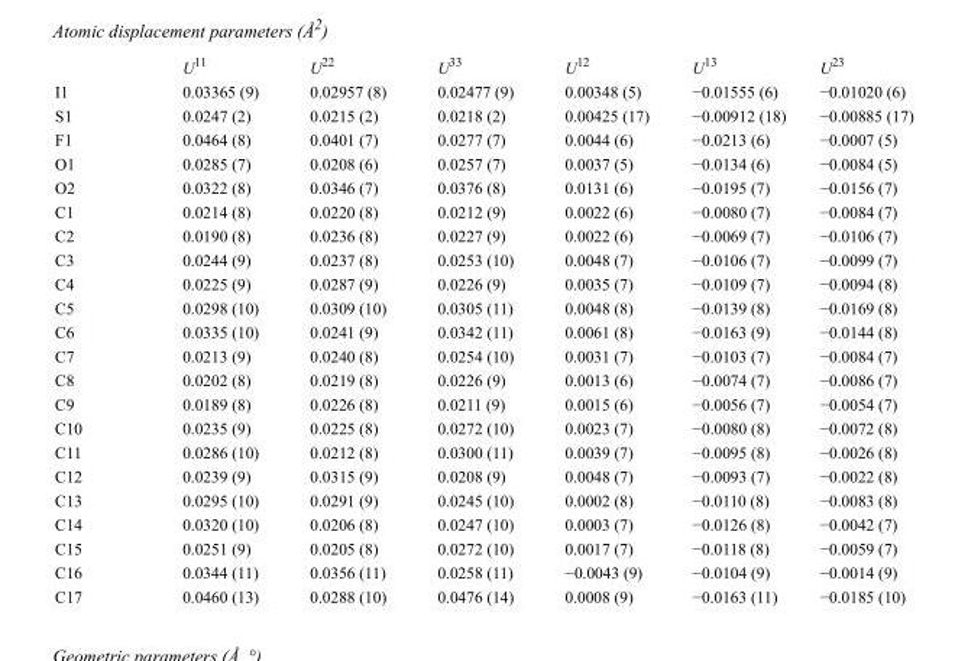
<table><thead><tr><td></td><td>U<sup>11</sup></td><td>U<sup>22</sup></td><td>U<sup>33</sup></td><td>U<sup>12</sup></td><td>U<sup>13</sup></td><td>U<sup>23</sup></td></tr></thead><tbody><tr><td>I1</td><td>0.03365 (9)</td><td>0.02957 (8)</td><td>0.02477 (9)</td><td>0.00348 (5)</td><td>−0.01555 (6)</td><td>−0.01020 (6)</td></tr><tr><td>S1</td><td>0.0247 (2)</td><td>0.0215 (2)</td><td>0.0218 (2)</td><td>0.00425 (17)</td><td>−0.00912 (18)</td><td>−0.00885 (17)</td></tr><tr><td>F1</td><td>0.0464 (8)</td><td>0.0401 (7)</td><td>0.0277 (7)</td><td>0.0044 (6)</td><td>−0.0213 (6)</td><td>−0.0007 (5)</td></tr><tr><td>O1</td><td>0.0285 (7)</td><td>0.0208 (6)</td><td>0.0257 (7)</td><td>0.0037 (5)</td><td>−0.0134 (6)</td><td>−0.0084 (5)</td></tr><tr><td>O2</td><td>0.0322 (8)</td><td>0.0346 (7)</td><td>0.0376 (8)</td><td>0.0131 (6)</td><td>−0.0195 (7)</td><td>−0.0156 (7)</td></tr><tr><td>C1</td><td>0.0214 (8)</td><td>0.0220 (8)</td><td>0.0212 (9)</td><td>0.0022 (6)</td><td>−0.0080 (7)</td><td>−0.0084 (7)</td></tr><tr><td>C2</td><td>0.0190 (8)</td><td>0.0236 (8)</td><td>0.0227 (9)</td><td>0.0022 (6)</td><td>−0.0069 (7)</td><td>−0.0106 (7)</td></tr><tr><td>C3</td><td>0.0244 (9)</td><td>0.0237 (8)</td><td>0.0253 (10)</td><td>0.0048 (7)</td><td>−0.0106 (7)</td><td>−0.0099 (7)</td></tr><tr><td>C4</td><td>0.0225 (9)</td><td>0.0287 (9)</td><td>0.0226 (9)</td><td>0.0035 (7)</td><td>−0.0109 (7)</td><td>−0.0094 (8)</td></tr><tr><td>C5</td><td>0.0298 (10)</td><td>0.0309 (10)</td><td>0.0305 (11)</td><td>0.0048 (8)</td><td>−0.0139 (8)</td><td>−0.0169 (8)</td></tr><tr><td>C6</td><td>0.0335 (10)</td><td>0.0241 (9)</td><td>0.0342 (11)</td><td>0.0061 (8)</td><td>−0.0163 (9)</td><td>−0.0144 (8)</td></tr><tr><td>C7</td><td>0.0213 (9)</td><td>0.0240 (8)</td><td>0.0254 (10)</td><td>0.0031 (7)</td><td>−0.0103 (7)</td><td>−0.0084 (7)</td></tr><tr><td>C8</td><td>0.0202 (8)</td><td>0.0219 (8)</td><td>0.0226 (9)</td><td>0.0013 (6)</td><td>−0.0074 (7)</td><td>−0.0086 (7)</td></tr><tr><td>C9</td><td>0.0189 (8)</td><td>0.0226 (8)</td><td>0.0211 (9)</td><td>0.0015 (6)</td><td>−0.0056 (7)</td><td>−0.0054 (7)</td></tr><tr><td>C10</td><td>0.0235 (9)</td><td>0.0225 (8)</td><td>0.0272 (10)</td><td>0.0023 (7)</td><td>−0.0080 (8)</td><td>−0.0072 (8)</td></tr><tr><td>C11</td><td>0.0286 (10)</td><td>0.0212 (8)</td><td>0.0300 (11)</td><td>0.0039 (7)</td><td>−0.0095 (8)</td><td>−0.0026 (8)</td></tr><tr><td>C12</td><td>0.0239 (9)</td><td>0.0315 (9)</td><td>0.0208 (9)</td><td>0.0048 (7)</td><td>−0.0093 (7)</td><td>−0.0022 (8)</td></tr><tr><td>C13</td><td>0.0295 (10)</td><td>0.0291 (9)</td><td>0.0245 (10)</td><td>0.0002 (8)</td><td>−0.0110 (8)</td><td>−0.0083 (8)</td></tr><tr><td>C14</td><td>0.0320 (10)</td><td>0.0206 (8)</td><td>0.0247 (10)</td><td>0.0003 (7)</td><td>−0.0126 (8)</td><td>−0.0042 (7)</td></tr><tr><td>C15</td><td>0.0251 (9)</td><td>0.0205 (8)</td><td>0.0272 (10)</td><td>0.0017 (7)</td><td>−0.0118 (8)</td><td>−0.0059 (7)</td></tr><tr><td>C16</td><td>0.0344 (11)</td><td>0.0356 (11)</td><td>0.0258 (11)</td><td>−0.0043 (9)</td><td>−0.0104 (9)</td><td>−0.0014 (9)</td></tr><tr><td>C17</td><td>0.0460 (13)</td><td>0.0288 (10)</td><td>0.0476 (14)</td><td>0.0008 (9)</td><td>−0.0163 (11)</td><td>−0.0185 (10)</td></tr></tbody></table>